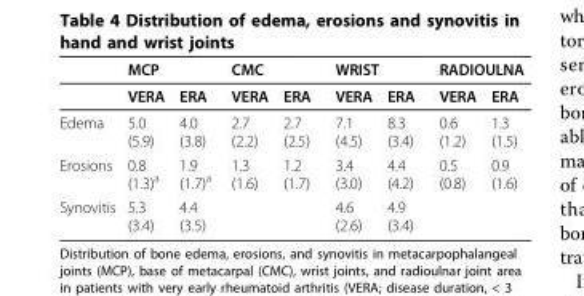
<table><thead><tr><td rowspan="2"></td><td colspan="2">MCP</td><td colspan="2">CMC</td><td colspan="2">WRIST</td><td colspan="2">RADIOULNA</td></tr><tr><td>VERA</td><td>ERA</td><td>VERA</td><td>ERA</td><td>VERA</td><td>ERA</td><td>VERA</td><td>ERA</td></tr></thead><tbody><tr><td>Edema</td><td>5.0 (5.9)</td><td>4.0 (3.8)</td><td>2.7 (2.2)</td><td>2.7 (2.5)</td><td>7.1 (4.5)</td><td>8.3 (3.4)</td><td>0.6 (1.2)</td><td>1.3 (1.5)</td></tr><tr><td>Erosions</td><td>0.8 (1.3)<sup>a</sup></td><td>1.9 (1.7)<sup>a</sup></td><td>1.3 (1.6)</td><td>1.2 (1.7)</td><td>3.4 (3.0)</td><td>4.4 (4.2)</td><td>0.5 (0.8)</td><td>0.9 (1.6)</td></tr><tr><td>Synovitis</td><td>5.3 (3.4)</td><td>4.4 (3.5)</td><td></td><td></td><td>4.6 (2.6)</td><td>4.9 (3.4)</td><td></td><td></td></tr></tbody></table>